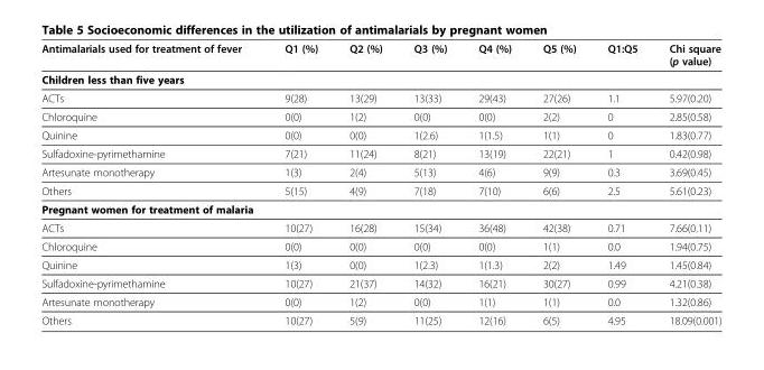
<table><thead><tr><td>Antimalarials used for treatment of fever</td><td>Q1 (%)</td><td>Q2 (%)</td><td>Q3 (%)</td><td>Q4 (%)</td><td>Q5 (%)</td><td>Q1:Q5</td><td>Chi square (p value)</td></tr></thead><tbody><tr><td colspan="8">Children less than five years</td></tr><tr><td>ACTs</td><td>9(28)</td><td>13(29)</td><td>13(33)</td><td>29(43)</td><td>27(26)</td><td>1.1</td><td>5.97(0.20)</td></tr><tr><td>Chloroquine</td><td>0(0)</td><td>1(2)</td><td>0(0)</td><td>0(0)</td><td>2(2)</td><td>0</td><td>2.85(0.58)</td></tr><tr><td>Quinine</td><td>0(0)</td><td>0(0)</td><td>1(2.6)</td><td>1(1.5)</td><td>1(1)</td><td>0</td><td>1.83(0.77)</td></tr><tr><td>Sulfadoxine-pyrimethamine</td><td>7(21)</td><td>11(24)</td><td>8(21)</td><td>13(19)</td><td>22(21)</td><td>1</td><td>0.42(0.98)</td></tr><tr><td>Artesunate monotherapy</td><td>1(3)</td><td>2(4)</td><td>5(13)</td><td>4(6)</td><td>9(9)</td><td>0.3</td><td>3.69(0.45)</td></tr><tr><td>Others</td><td>5(15)</td><td>4(9)</td><td>7(18)</td><td>7(10)</td><td>6(6)</td><td>2.5</td><td>5.61(0.23)</td></tr><tr><td colspan="8">Pregnant women for treatment of malaria</td></tr><tr><td>ACTs</td><td>10(27)</td><td>16(28)</td><td>15(34)</td><td>36(48)</td><td>42(38)</td><td>0.71</td><td>7.66(0.11)</td></tr><tr><td>Chloroquine</td><td>0(0)</td><td>0(0)</td><td>0(0)</td><td>0(0)</td><td>1(1)</td><td>0.0</td><td>1.94(0.75)</td></tr><tr><td>Quinine</td><td>1(3)</td><td>0(0)</td><td>1(2.3)</td><td>1(1.3)</td><td>2(2)</td><td>1.49</td><td>1.45(0.84)</td></tr><tr><td>Sulfadoxine-pyrimethamine</td><td>10(27)</td><td>21(37)</td><td>14(32)</td><td>16(21)</td><td>30(27)</td><td>0.99</td><td>4.21(0.38)</td></tr><tr><td>Artesunate monotherapy</td><td>0(0)</td><td>1(2)</td><td>0(0)</td><td>1(1)</td><td>1(1)</td><td>0.0</td><td>1.32(0.86)</td></tr><tr><td>Others</td><td>10(27)</td><td>5(9)</td><td>11(25)</td><td>12(16)</td><td>6(5)</td><td>4.95</td><td>18.09(0.001)</td></tr></tbody></table>